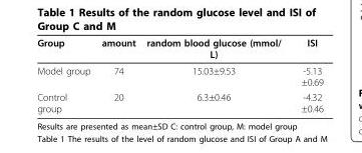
<table><thead><tr><td>Group</td><td>amount</td><td>random blood glucose (mmol/ L)</td><td>ISI</td></tr></thead><tbody><tr><td>Model group</td><td>74</td><td>15.03±9.53</td><td>-5.13 ±0.69</td></tr><tr><td>Control group</td><td>20</td><td>6.3±0.46</td><td>-4.32 ±0.46</td></tr></tbody></table>